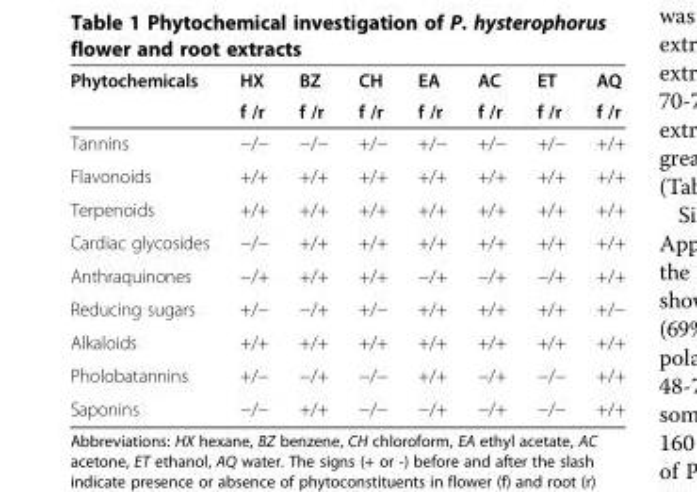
<table><thead><tr><td rowspan="2">Phytochemicals</td><td rowspan="2">HX f /r</td><td rowspan="2">BZ f /r</td><td rowspan="2">CH f /r</td><td rowspan="2">EA f /r</td><td rowspan="2">AC f /r</td><td rowspan="2">ET f /r</td><td rowspan="2">AQ f /r</td></tr><tr></tr></thead><tbody><tr><td>Tannins</td><td>−/−</td><td>−/−</td><td>+/−</td><td>+/−</td><td>+/−</td><td>+/−</td><td>+/+</td></tr><tr><td>Flavonoids</td><td>+/+</td><td>+/+</td><td>+/+</td><td>+/+</td><td>+/+</td><td>+/+</td><td>+/+</td></tr><tr><td>Terpenoids</td><td>+/+</td><td>+/+</td><td>+/+</td><td>+/+</td><td>+/+</td><td>+/+</td><td>+/+</td></tr><tr><td>Cardiac glycosides</td><td>−/−</td><td>+/+</td><td>+/+</td><td>+/+</td><td>+/+</td><td>+/+</td><td>+/+</td></tr><tr><td>Anthraquinones</td><td>−/+</td><td>+/+</td><td>+/+</td><td>−/+</td><td>−/+</td><td>−/+</td><td>+/+</td></tr><tr><td>Reducing sugars</td><td>+/−</td><td>−/+</td><td>+/−</td><td>+/+</td><td>+/+</td><td>+/+</td><td>+/−</td></tr><tr><td>Alkaloids</td><td>+/+</td><td>+/+</td><td>+/+</td><td>+/+</td><td>+/+</td><td>+/+</td><td>+/+</td></tr><tr><td>Pholobatannins</td><td>+/−</td><td>−/+</td><td>−/−</td><td>+/+</td><td>−/+</td><td>−/−</td><td>+/+</td></tr><tr><td>Saponins</td><td>−/−</td><td>+/+</td><td>−/−</td><td>−/+</td><td>−/+</td><td>−/−</td><td>+/+</td></tr></tbody></table>